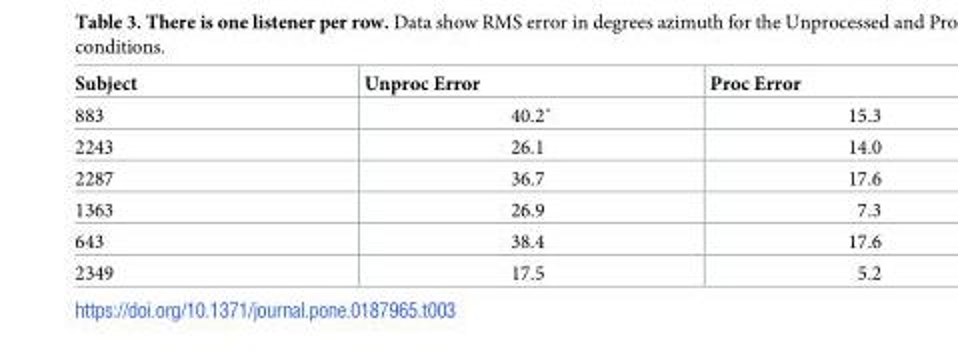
<table><thead><tr><td>Subject</td><td>Unproc Error</td><td>Proc Error</td></tr></thead><tbody><tr><td>883</td><td>40.2˚</td><td>15.3</td></tr><tr><td>2243</td><td>26.1</td><td>14.0</td></tr><tr><td>2287</td><td>36.7</td><td>17.6</td></tr><tr><td>1363</td><td>26.9</td><td>7.3</td></tr><tr><td>643</td><td>38.4</td><td>17.6</td></tr><tr><td>2349</td><td>17.5</td><td>5.2</td></tr></tbody></table>